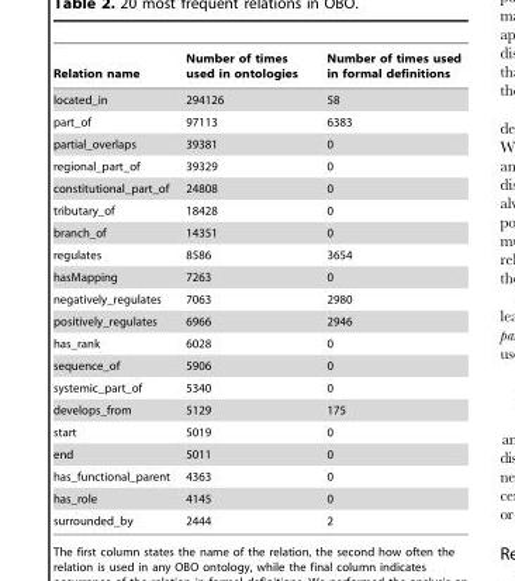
<table><thead><tr><td>Relation name</td><td>Number of times used in ontologies</td><td>Number of times used in formal definitions</td></tr></thead><tbody><tr><td>located_in</td><td>294126</td><td>58</td></tr><tr><td>part_of</td><td>97113</td><td>6383</td></tr><tr><td>partial_overlaps</td><td>39381</td><td>0</td></tr><tr><td>regional_part_of</td><td>39329</td><td>0</td></tr><tr><td>constitutional_part_of</td><td>24808</td><td>0</td></tr><tr><td>tributary_of</td><td>18428</td><td>0</td></tr><tr><td>branch_of</td><td>14351</td><td>0</td></tr><tr><td>regulates</td><td>8586</td><td>3654</td></tr><tr><td>hasMapping</td><td>7263</td><td>0</td></tr><tr><td>negatively_regulates</td><td>7063</td><td>2980</td></tr><tr><td>positively_regulates</td><td>6966</td><td>2946</td></tr><tr><td>has_rank</td><td>6028</td><td>0</td></tr><tr><td>sequence_of</td><td>5906</td><td>0</td></tr><tr><td>systemic_part_of</td><td>5340</td><td>0</td></tr><tr><td>develops_from</td><td>5129</td><td>175</td></tr><tr><td>start</td><td>5019</td><td>0</td></tr><tr><td>end</td><td>5011</td><td>0</td></tr><tr><td>has_functional_parent</td><td>4363</td><td>0</td></tr><tr><td>has_role</td><td>4145</td><td>0</td></tr><tr><td>surrounded_by</td><td>2444</td><td>2</td></tr></tbody></table>